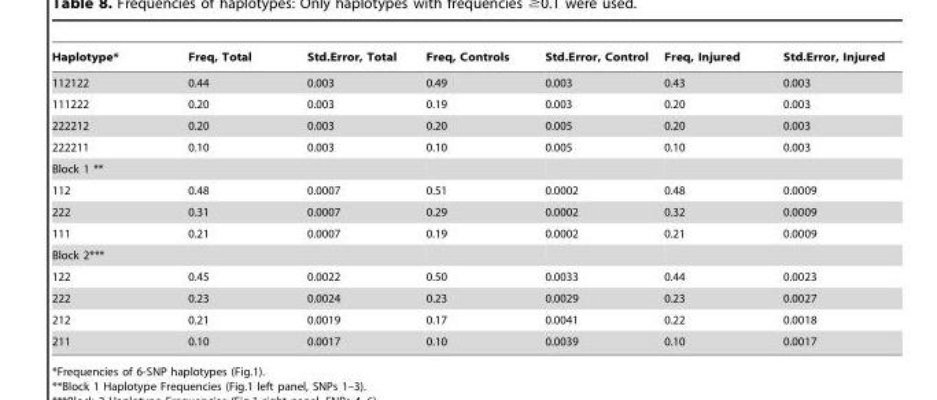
<table><thead><tr><td>Haplotype*</td><td>Freq, Total</td><td>Std.Error, Total</td><td>Freq, Controls</td><td>Std.Error, Control</td><td>Freq, Injured</td><td>Std.Error, Injured</td></tr></thead><tbody><tr><td>112122</td><td>0.44</td><td>0.003</td><td>0.49</td><td>0.003</td><td>0.43</td><td>0.003</td></tr><tr><td>111222</td><td>0.20</td><td>0.003</td><td>0.19</td><td>0.003</td><td>0.20</td><td>0.003</td></tr><tr><td>222212</td><td>0.20</td><td>0.003</td><td>0.20</td><td>0.005</td><td>0.20</td><td>0.003</td></tr><tr><td>222211</td><td>0.10</td><td>0.003</td><td>0.10</td><td>0.005</td><td>0.10</td><td>0.003</td></tr><tr><td colspan="7">Block 1 **</td></tr><tr><td>112</td><td>0.48</td><td>0.0007</td><td>0.51</td><td>0.0002</td><td>0.48</td><td>0.0009</td></tr><tr><td>222</td><td>0.31</td><td>0.0007</td><td>0.29</td><td>0.0002</td><td>0.32</td><td>0.0009</td></tr><tr><td>111</td><td>0.21</td><td>0.0007</td><td>0.19</td><td>0.0002</td><td>0.21</td><td>0.0009</td></tr><tr><td colspan="7">Block 2***</td></tr><tr><td>122</td><td>0.45</td><td>0.0022</td><td>0.50</td><td>0.0033</td><td>0.44</td><td>0.0023</td></tr><tr><td>222</td><td>0.23</td><td>0.0024</td><td>0.23</td><td>0.0029</td><td>0.23</td><td>0.0027</td></tr><tr><td>212</td><td>0.21</td><td>0.0019</td><td>0.17</td><td>0.0041</td><td>0.22</td><td>0.0018</td></tr><tr><td>211</td><td>0.10</td><td>0.0017</td><td>0.10</td><td>0.0039</td><td>0.10</td><td>0.0017</td></tr></tbody></table>